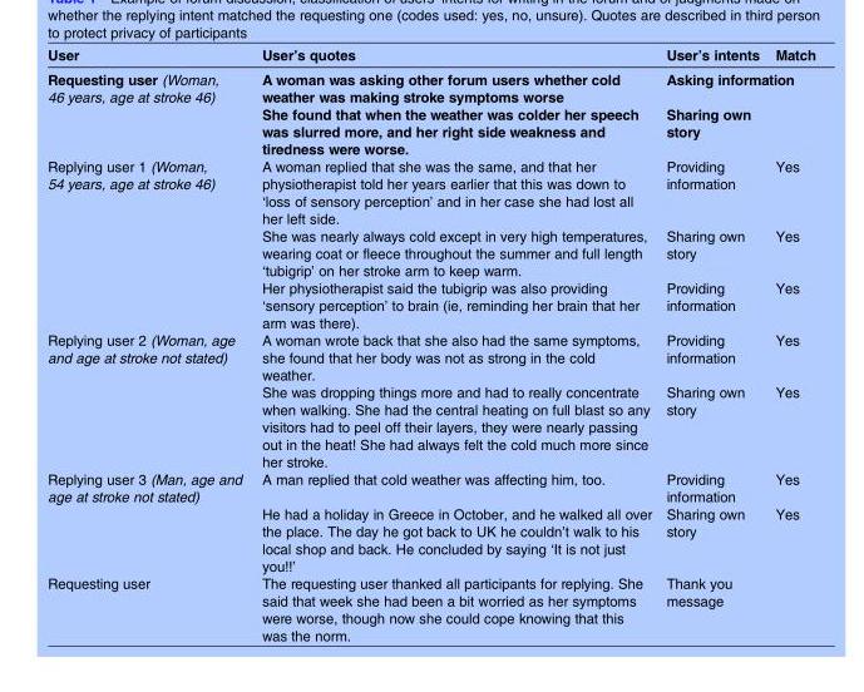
<table><thead><tr><td>User</td><td>User’s quotes</td><td>User’s intents</td><td>Match</td></tr></thead><tbody><tr><td rowspan="2">Requesting user (Woman, 46 years, age at stroke 46)</td><td>A woman was asking other forum users whether cold weather was making stroke symptoms worse</td><td colspan="2">Asking information</td></tr><tr><td>She found that when the weather was colder her speech was slurred more, and her right side weakness and tiredness were worse.</td><td>Sharing own story</td><td></td></tr><tr><td rowspan="3">Replying user 1 (Woman, 54 years, age at stroke 46)</td><td>A woman replied that she was the same, and that her physiotherapist told her years earlier that this was down to ‘loss of sensory perception’ and in her case she had lost all her left side.</td><td>Providing information</td><td>Yes</td></tr><tr><td>She was nearly always cold except in very high temperatures, wearing coat or fleece throughout the summer and full length ‘tubigrip’ on her stroke arm to keep warm.</td><td>Sharing own story</td><td>Yes</td></tr><tr><td>Her physiotherapist said the tubigrip was also providing ‘sensory perception’ to brain (ie, reminding her brain that her arm was there).</td><td>Providing information</td><td>Yes</td></tr><tr><td rowspan="2">Replying user 2 (Woman, age and age at stroke not stated)</td><td>A woman wrote back that she also had the same symptoms, she found that her body was not as strong in the cold weather.</td><td>Providing information</td><td>Yes</td></tr><tr><td>She was dropping things more and had to really concentrate when walking. She had the central heating on full blast so any visitors had to peel off their layers, they were nearly passing out in the heat! She had always felt the cold much more since her stroke.</td><td>Sharing own story</td><td>Yes</td></tr><tr><td rowspan="2">Replying user 3 (Man, age and age at stroke not stated)</td><td>A man replied that cold weather was affecting him, too.</td><td>Providing information</td><td>Yes</td></tr><tr><td>He had a holiday in Greece in October, and he walked all over the place. The day he got back to UK he couldn’t walk to his local shop and back. He concluded by saying ‘It is not just you!!’</td><td>Sharing own story</td><td>Yes</td></tr><tr><td>Requesting user</td><td>The requesting user thanked all participants for replying. She said that week she had been a bit worried as her symptoms were worse, though now she could cope knowing that this was the norm.</td><td>Thank you message</td><td></td></tr></tbody></table>